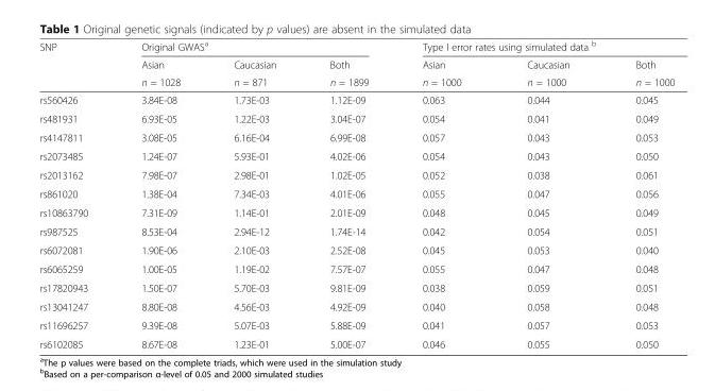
<table><thead><tr><td rowspan="3">SNP</td><td colspan="3">Original GWAS<sup>a</sup></td><td colspan="3">Type I error rates using simulated data <sup>b</sup></td></tr><tr><td rowspan="2">Asian n = 1028</td><td rowspan="2">Caucasian n = 871</td><td rowspan="2">Both n = 1899</td><td rowspan="2">Asian n = 1000</td><td rowspan="2">Caucasian n = 1000</td><td rowspan="2">Both n = 1000</td></tr><tr></tr></thead><tbody><tr><td>rs560426</td><td>3.84E-08</td><td>1.73E-03</td><td>1.12E-09</td><td>0.063</td><td>0.044</td><td>0.045</td></tr><tr><td>rs481931</td><td>6.93E-05</td><td>1.22E-03</td><td>3.04E-07</td><td>0.054</td><td>0.041</td><td>0.049</td></tr><tr><td>rs4147811</td><td>3.08E-05</td><td>6.16E-04</td><td>6.99E-08</td><td>0.057</td><td>0.043</td><td>0.053</td></tr><tr><td>rs2073485</td><td>1.24E-07</td><td>5.93E-01</td><td>4.02E-06</td><td>0.054</td><td>0.043</td><td>0.050</td></tr><tr><td>rs2013162</td><td>7.98E-07</td><td>2.98E-01</td><td>1.02E-05</td><td>0.052</td><td>0.038</td><td>0.061</td></tr><tr><td>rs861020</td><td>1.38E-04</td><td>7.34E-03</td><td>4.01E-06</td><td>0.055</td><td>0.047</td><td>0.056</td></tr><tr><td>rs10863790</td><td>7.31E-09</td><td>1.14E-01</td><td>2.01E-09</td><td>0.048</td><td>0.045</td><td>0.049</td></tr><tr><td>rs987525</td><td>8.53E-04</td><td>2.94E-12</td><td>1.74E-14</td><td>0.042</td><td>0.054</td><td>0.051</td></tr><tr><td>rs6072081</td><td>1.90E-06</td><td>2.10E-03</td><td>2.52E-08</td><td>0.045</td><td>0.053</td><td>0.040</td></tr><tr><td>rs6065259</td><td>1.00E-05</td><td>1.19E-02</td><td>7.57E-07</td><td>0.055</td><td>0.047</td><td>0.048</td></tr><tr><td>rs17820943</td><td>1.50E-07</td><td>5.70E-03</td><td>9.81E-09</td><td>0.038</td><td>0.059</td><td>0.051</td></tr><tr><td>rs13041247</td><td>8.80E-08</td><td>4.56E-03</td><td>4.92E-09</td><td>0.040</td><td>0.058</td><td>0.048</td></tr><tr><td>rs11696257</td><td>9.39E-08</td><td>5.07E-03</td><td>5.88E-09</td><td>0.041</td><td>0.057</td><td>0.053</td></tr><tr><td>rs6102085</td><td>8.67E-08</td><td>1.23E-01</td><td>5.00E-07</td><td>0.046</td><td>0.055</td><td>0.050</td></tr></tbody></table>